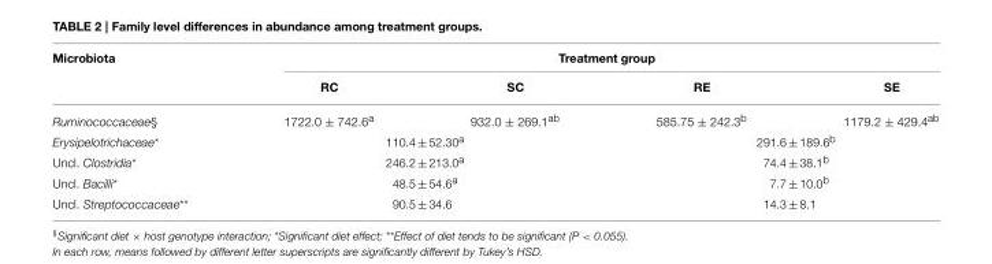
<table><thead><tr><td rowspan="2">Microbiota</td><td colspan="4">Treatment group</td></tr><tr><td>RC</td><td>SC</td><td>RE</td><td>SE</td></tr></thead><tbody><tr><td>Ruminococcaceae§</td><td>1722.0 ± 742.6<sup>a</sup></td><td>932.0 ± 269.1<sup>ab</sup></td><td>585.75 ± 242.3<sup>b</sup></td><td>1179.2 ± 429.4<sup>ab</sup></td></tr><tr><td>Erysipelotrichaceae*</td><td colspan="2">110.4 ± 52.30<sup>a</sup></td><td colspan="2">291.6 ± 189.6<sup>b</sup></td></tr><tr><td>Uncl. Clostridia*</td><td colspan="2">246.2 ± 213.0<sup>a</sup></td><td colspan="2">74.4 ± 38.1<sup>b</sup></td></tr><tr><td>Uncl. Bacilli*</td><td colspan="2">48.5 ± 54.6<sup>a</sup></td><td colspan="2">7.7 ± 10.0<sup>b</sup></td></tr><tr><td>Uncl. Streptococcaceae**</td><td colspan="2">90.5 ± 34.6</td><td colspan="2">14.3 ± 8.1</td></tr></tbody></table>